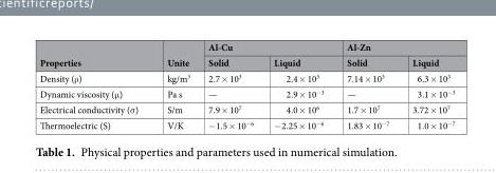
<table><thead><tr><td rowspan="2">Properties</td><td rowspan="2">Unite</td><td colspan="2">Al-Cu</td><td colspan="2">Al-Zn</td></tr><tr><td>Solid</td><td>Liquid</td><td>Solid</td><td>Liquid</td></tr></thead><tbody><tr><td>Density (ρ)</td><td>kg/m<sup>3</sup></td><td>2.7 × 10<sup>3</sup></td><td>2.4 × 10<sup>3</sup></td><td>7.14 × 10<sup>3</sup></td><td>6.3 × 10<sup>3</sup></td></tr><tr><td>Dynamic viscosity (μ)</td><td>Pa s</td><td>—</td><td>2.9 × 10<sup>−3</sup></td><td>—</td><td>3.1 × 10<sup>−3</sup></td></tr><tr><td>Electrical conductivity (σ)</td><td>S/m</td><td>7.9 × 10<sup>7</sup></td><td>4.0 × 10<sup>6</sup></td><td>1.7 × 10<sup>7</sup></td><td>3.72 × 10<sup>7</sup></td></tr><tr><td>Thermoelectric (S)</td><td>V/K</td><td>−1.5 × 10<sup>−6</sup></td><td>−2.25 × 10<sup>−6</sup></td><td>1.83 × 10<sup>−7</sup></td><td>1.0 × 10<sup>−7</sup></td></tr></tbody></table>